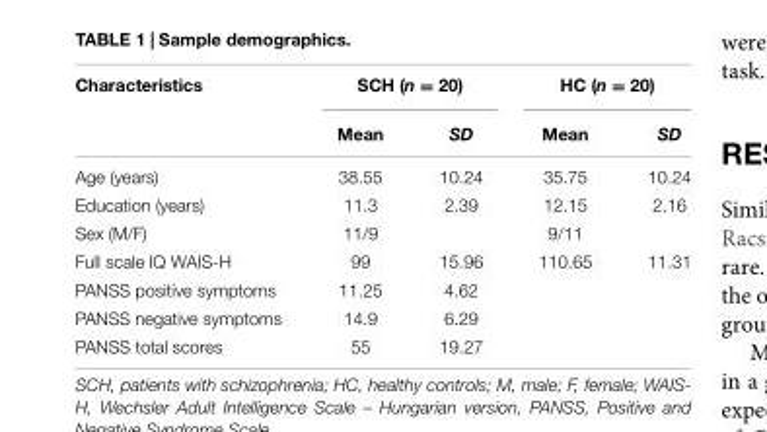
<table><thead><tr><td rowspan="2">Characteristics</td><td colspan="2">SCH (n = 20)</td><td colspan="2">HC (n = 20)</td></tr><tr><td>Mean</td><td>SD</td><td>Mean</td><td>SD</td></tr></thead><tbody><tr><td>Age (years)</td><td>38.55</td><td>10.24</td><td>35.75</td><td>10.24</td></tr><tr><td>Education (years)</td><td>11.3</td><td>2.39</td><td>12.15</td><td>2.16</td></tr><tr><td>Sex (M/F)</td><td>11/9</td><td></td><td>9/11</td><td></td></tr><tr><td>Full scale IQ WAIS-H</td><td>99</td><td>15.96</td><td>110.65</td><td>11.31</td></tr><tr><td>PANSS positive symptoms</td><td>11.25</td><td>4.62</td><td></td><td></td></tr><tr><td>PANSS negative symptoms</td><td>14.9</td><td>6.29</td><td></td><td></td></tr><tr><td>PANSS total scores</td><td>55</td><td>19.27</td><td></td><td></td></tr></tbody></table>